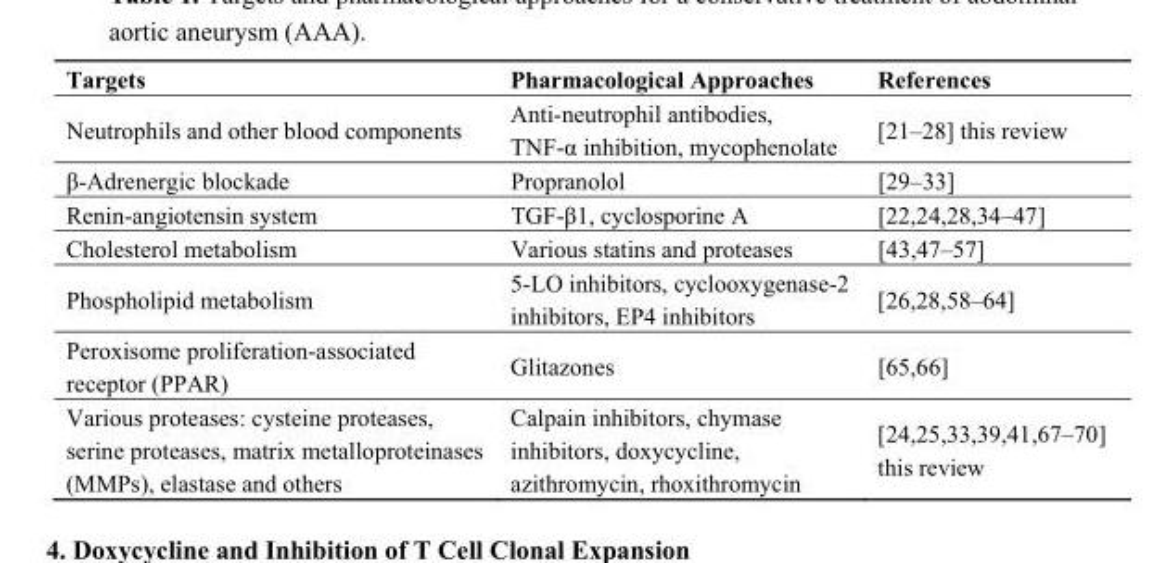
<table><thead><tr><td>Targets</td><td>Pharmacological Approaches</td><td>References</td></tr></thead><tbody><tr><td>Neutrophils and other blood components</td><td>Anti-neutrophil antibodies, TNF-α inhibition, mycophenolate</td><td>[21–28] this review</td></tr><tr><td>β-Adrenergic blockade</td><td>Propranolol</td><td>[29–33]</td></tr><tr><td>Renin-angiotensin system</td><td>TGF-β1, cyclosporine A</td><td>[22,24,28,34–47]</td></tr><tr><td>Cholesterol metabolism</td><td>Various statins and proteases</td><td>[43,47–57]</td></tr><tr><td>Phospholipid metabolism</td><td>5-LO inhibitors, cyclooxygenase-2 inhibitors, EP4 inhibitors</td><td>[26,28,58–64]</td></tr><tr><td>Peroxisome proliferation-associated receptor (PPAR)</td><td>Glitazones</td><td>[65,66]</td></tr><tr><td>Various proteases: cysteine proteases, serine proteases, matrix metalloproteinases (MMPs), elastase and others</td><td>Calpain inhibitors, chymase inhibitors, doxycycline, azithromycin, rhoxithromycin</td><td>[24,25,33,39,41,67–70] this review</td></tr></tbody></table>